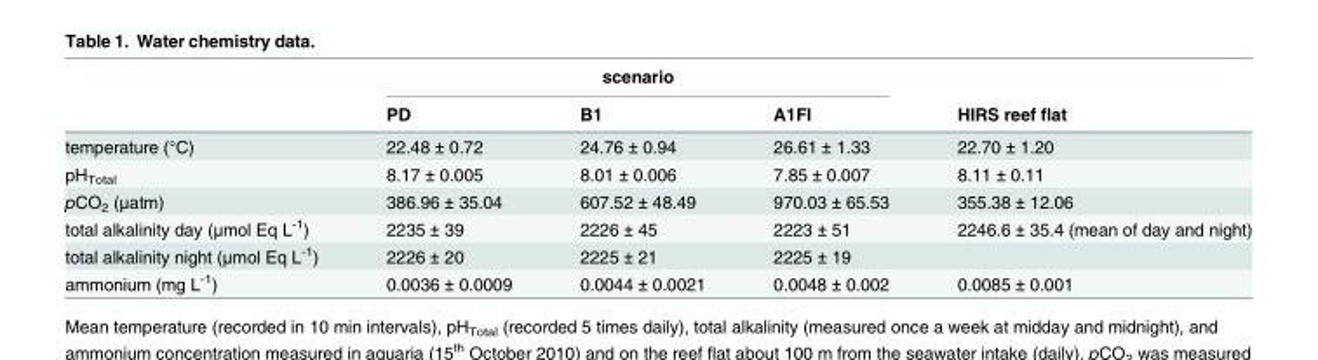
<table><thead><tr><td rowspan="2"></td><td colspan="3">scenario</td><td rowspan="2">HIRS reef flat</td></tr><tr><td>PD</td><td>B1</td><td>A1FI</td></tr></thead><tbody><tr><td>temperature (°C)</td><td>22.48 ± 0.72</td><td>24.76 ± 0.94</td><td>26.61 ± 1.33</td><td>22.70 ± 1.20</td></tr><tr><td>pH<sub>Total</sub></td><td>8.17 ± 0.005</td><td>8.01 ± 0.006</td><td>7.85 ± 0.007</td><td>8.11 ± 0.11</td></tr><tr><td>pCO<sub>2</sub> (μatm)</td><td>386.96 ± 35.04</td><td>607.52 ± 48.49</td><td>970.03 ± 65.53</td><td>355.38 ± 12.06</td></tr><tr><td>total alkalinity day (μmol Eq L<sup>-1</sup>)</td><td>2235 ± 39</td><td>2226 ± 45</td><td>2223 ± 51</td><td>2246.6 ± 35.4 (mean of day and night)</td></tr><tr><td>total alkalinity night (μmol Eq L<sup>-1</sup>)</td><td>2226 ± 20</td><td>2225 ± 21</td><td>2225 ± 19</td><td></td></tr><tr><td>ammonium (mg L<sup>-1</sup>)</td><td>0.0036 ± 0.0009</td><td>0.0044 ± 0.0021</td><td>0.0048 ± 0.002</td><td>0.0085 ± 0.001</td></tr></tbody></table>